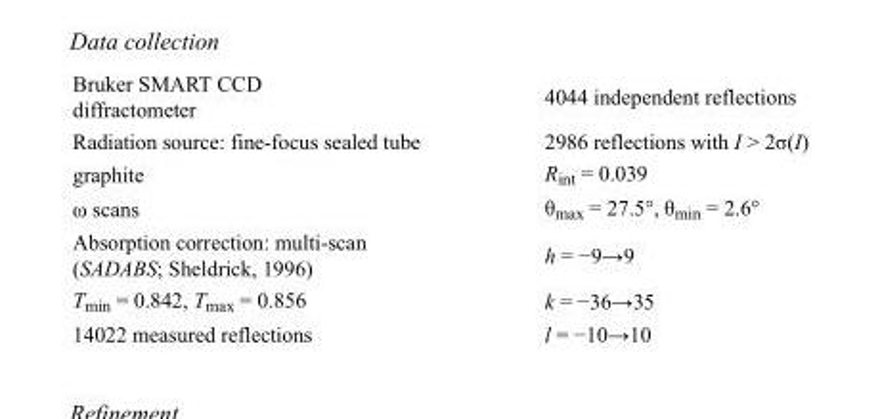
<table><tbody><tr><td>Bruker SMART CCD diffractometer</td><td>4044 independent reflections</td></tr><tr><td>Radiation source: fine-focus sealed tube</td><td>2986 reflections with I &gt; 2σ(I)</td></tr><tr><td>graphite</td><td>R<sub>int</sub> = 0.039</td></tr><tr><td>ω scans</td><td>θ<sub>max</sub> = 27.5°, θ<sub>min</sub> = 2.6°</td></tr><tr><td>Absorption correction: multi-scan (SADABS; Sheldrick, 1996)</td><td>h = −9→9</td></tr><tr><td>T<sub>min</sub> = 0.842, T<sub>max</sub> = 0.856</td><td>k = −36→35</td></tr><tr><td>14022 measured reflections</td><td>l = −10→10</td></tr></tbody></table>